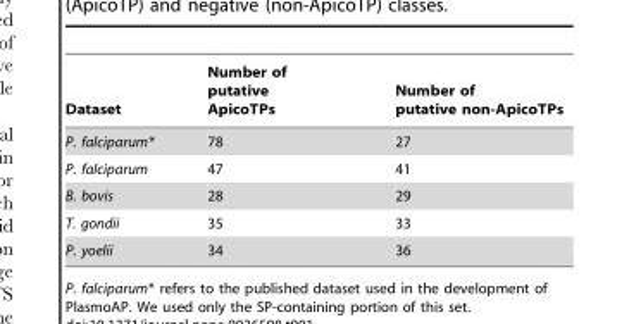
<table><thead><tr><td>Dataset</td><td>Number of putative ApicoTPs</td><td>Number of putative non-ApicoTPs</td></tr></thead><tbody><tr><td>P. falciparum*</td><td>78</td><td>27</td></tr><tr><td>P. falciparum</td><td>47</td><td>41</td></tr><tr><td>B. bovis</td><td>28</td><td>29</td></tr><tr><td>T. gondii</td><td>35</td><td>33</td></tr><tr><td>P. yoelii</td><td>34</td><td>36</td></tr></tbody></table>